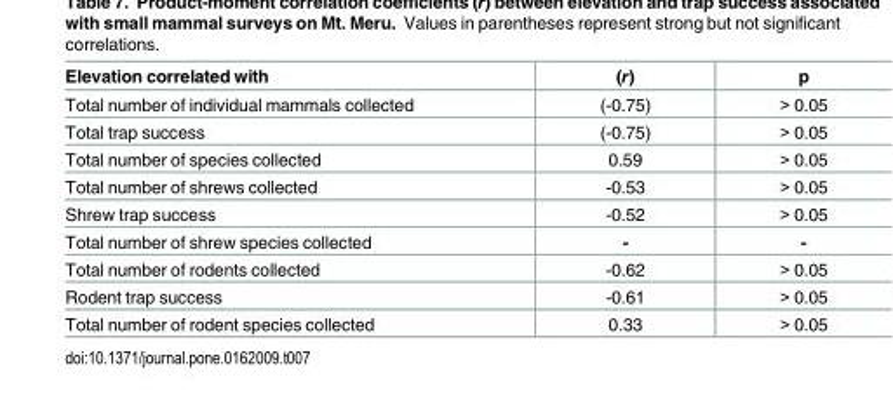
<table><thead><tr><td>Elevation correlated with</td><td>(r)</td><td>p</td></tr></thead><tbody><tr><td>Total number of individual mammals collected</td><td>(-0.75)</td><td>&gt; 0.05</td></tr><tr><td>Total trap success</td><td>(-0.75)</td><td>&gt; 0.05</td></tr><tr><td>Total number of species collected</td><td>0.59</td><td>&gt; 0.05</td></tr><tr><td>Total number of shrews collected</td><td>-0.53</td><td>&gt; 0.05</td></tr><tr><td>Shrew trap success</td><td>-0.52</td><td>&gt; 0.05</td></tr><tr><td>Total number of shrew species collected</td><td>-</td><td>-</td></tr><tr><td>Total number of rodents collected</td><td>-0.62</td><td>&gt; 0.05</td></tr><tr><td>Rodent trap success</td><td>-0.61</td><td>&gt; 0.05</td></tr><tr><td>Total number of rodent species collected</td><td>0.33</td><td>&gt; 0.05</td></tr></tbody></table>